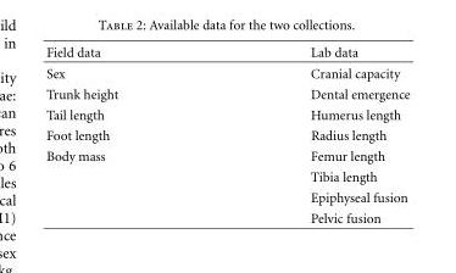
<table><thead><tr><td>Field data</td><td>Lab data</td></tr></thead><tbody><tr><td>Sex</td><td>Cranial capacity</td></tr><tr><td>Trunk height</td><td>Dental emergence</td></tr><tr><td>Tail length</td><td>Humerus length</td></tr><tr><td>Foot length</td><td>Radius length</td></tr><tr><td rowspan="4">Body mass</td><td>Femur length</td></tr><tr><td>Tibia length</td></tr><tr><td>Epiphyseal fusion</td></tr><tr><td>Pelvic fusion</td></tr></tbody></table>